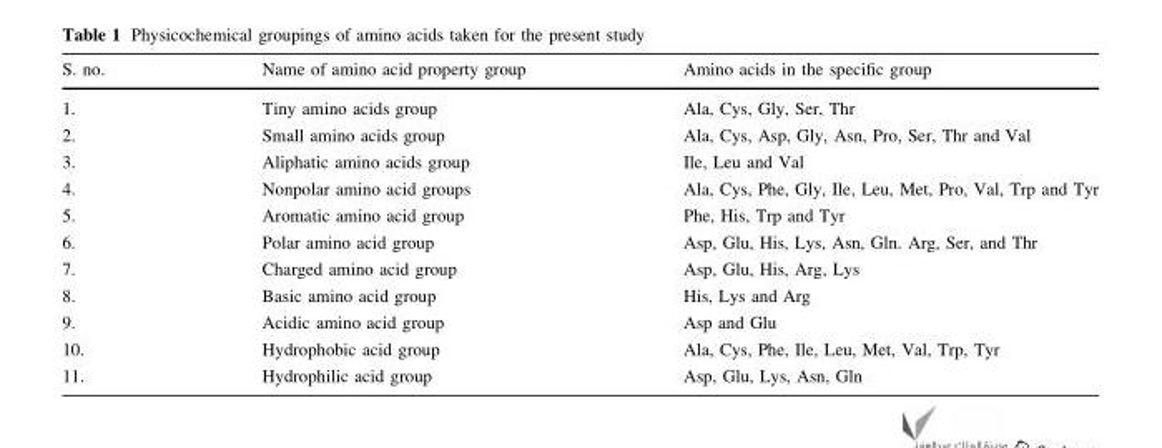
<table><thead><tr><td>S. no.</td><td>Name of amino acid property group</td><td>Amino acids in the specific group</td></tr></thead><tbody><tr><td>1.</td><td>Tiny amino acids group</td><td>Ala, Cys, Gly, Ser, Thr</td></tr><tr><td>2.</td><td>Small amino acids group</td><td>Ala, Cys, Asp, Gly, Asn, Pro, Ser, Thr and Val</td></tr><tr><td>3.</td><td>Aliphatic amino acids group</td><td>Ile, Leu and Val</td></tr><tr><td>4.</td><td>Nonpolar amino acid groups</td><td>Ala, Cys, Phe, Gly, Ile, Leu, Met, Pro, Val, Trp and Tyr</td></tr><tr><td>5.</td><td>Aromatic amino acid group</td><td>Phe, His, Trp and Tyr</td></tr><tr><td>6.</td><td>Polar amino acid group</td><td>Asp, Glu, His, Lys, Asn, Gln. Arg, Ser, and Thr</td></tr><tr><td>7.</td><td>Charged amino acid group</td><td>Asp, Glu, His, Arg, Lys</td></tr><tr><td>8.</td><td>Basic amino acid group</td><td>His, Lys and Arg</td></tr><tr><td>9.</td><td>Acidic amino acid group</td><td>Asp and Glu</td></tr><tr><td>10.</td><td>Hydrophobic acid group</td><td>Ala, Cys, Phe, Ile, Leu, Met, Val, Trp, Tyr</td></tr><tr><td>11.</td><td>Hydrophilic acid group</td><td>Asp, Glu, Lys, Asn, Gln</td></tr></tbody></table>